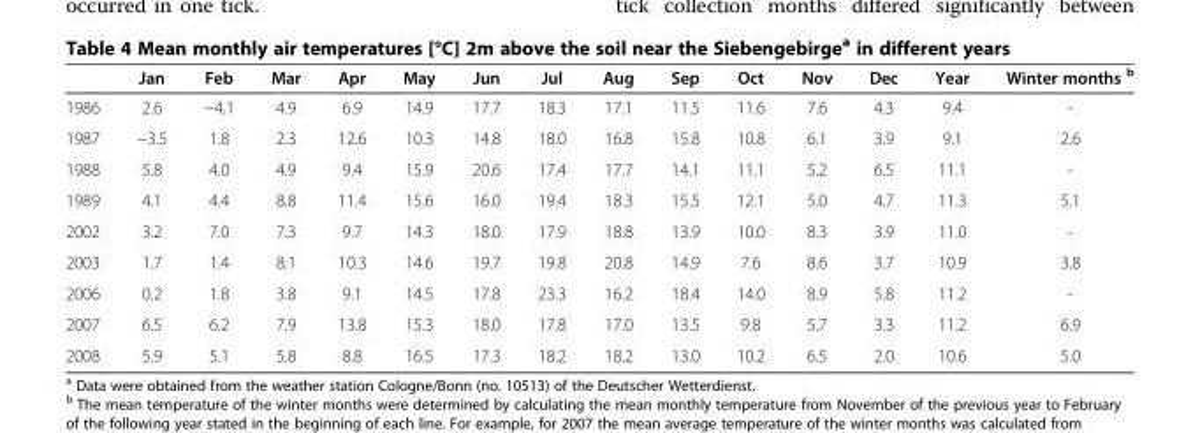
<table><thead><tr><td></td><td>Jan</td><td>Feb</td><td>Mar</td><td>Apr</td><td>May</td><td>Jun</td><td>Jul</td><td>Aug</td><td>Sep</td><td>Oct</td><td>Nov</td><td>Dec</td><td>Year</td><td>Winter months <sup>b</sup></td></tr></thead><tbody><tr><td>1986</td><td>2.6</td><td>−4.1</td><td>4.9</td><td>6.9</td><td>14.9</td><td>17.7</td><td>18.3</td><td>17.1</td><td>11.5</td><td>11.6</td><td>7.6</td><td>4.3</td><td>9.4</td><td>-</td></tr><tr><td>1987</td><td>−3.5</td><td>1.8</td><td>2.3</td><td>12.6</td><td>10.3</td><td>14.8</td><td>18.0</td><td>16.8</td><td>15.8</td><td>10.8</td><td>6.1</td><td>3.9</td><td>9.1</td><td>2.6</td></tr><tr><td>1988</td><td>5.8</td><td>4.0</td><td>4.9</td><td>9.4</td><td>15.9</td><td>20.6</td><td>17.4</td><td>17.7</td><td>14.1</td><td>11.1</td><td>5.2</td><td>6.5</td><td>11.1</td><td>-</td></tr><tr><td>1989</td><td>4.1</td><td>4.4</td><td>8.8</td><td>11.4</td><td>15.6</td><td>16.0</td><td>19.4</td><td>18.3</td><td>15.5</td><td>12.1</td><td>5.0</td><td>4.7</td><td>11.3</td><td>5.1</td></tr><tr><td>2002</td><td>3.2</td><td>7.0</td><td>7.3</td><td>9.7</td><td>14.3</td><td>18.0</td><td>17.9</td><td>18.8</td><td>13.9</td><td>10.0</td><td>8.3</td><td>3.9</td><td>11.0</td><td>-</td></tr><tr><td>2003</td><td>1.7</td><td>1.4</td><td>8.1</td><td>10.3</td><td>14.6</td><td>19.7</td><td>19.8</td><td>20.8</td><td>14.9</td><td>7.6</td><td>8.6</td><td>3.7</td><td>10.9</td><td>3.8</td></tr><tr><td>2006</td><td>0.2</td><td>1.8</td><td>3.8</td><td>9.1</td><td>14.5</td><td>17.8</td><td>23.3</td><td>16.2</td><td>18.4</td><td>14.0</td><td>8.9</td><td>5.8</td><td>11.2</td><td>-</td></tr><tr><td>2007</td><td>6.5</td><td>6.2</td><td>7.9</td><td>13.8</td><td>15.3</td><td>18.0</td><td>17.8</td><td>17.0</td><td>13.5</td><td>9.8</td><td>5.7</td><td>3.3</td><td>11.2</td><td>6.9</td></tr><tr><td>2008</td><td>5.9</td><td>5.1</td><td>5.8</td><td>8.8</td><td>16.5</td><td>17.3</td><td>18.2</td><td>18.2</td><td>13.0</td><td>10.2</td><td>6.5</td><td>2.0</td><td>10.6</td><td>5.0</td></tr></tbody></table>